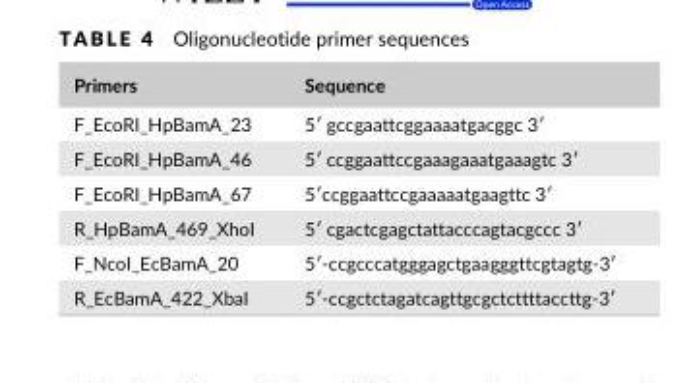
<table><thead><tr><td>Primers</td><td>Sequence</td></tr></thead><tbody><tr><td>F_EcoRI_HpBamA_23</td><td>5′ gccgaattcggaaaatgacggc 3′</td></tr><tr><td>F_EcoRI_HpBamA_46</td><td>5′ ccggaattccgaaagaaatgaaagtc 3′</td></tr><tr><td>F_EcoRI_HpBamA_67</td><td>5′ccggaattccgaaaaatgaagttc 3′</td></tr><tr><td>R_HpBamA_469_XhoI</td><td>5′ cgactcgagctattacccagtacgccc 3′</td></tr><tr><td>F_NcoI_EcBamA_20</td><td>5′- ccgcccatgggagctgaagggttcgtagtg- 3′</td></tr><tr><td>R_EcBamA_422_XbaI</td><td>5′- ccgctctagatcagttgcgctcttttaccttg- 3′</td></tr></tbody></table>